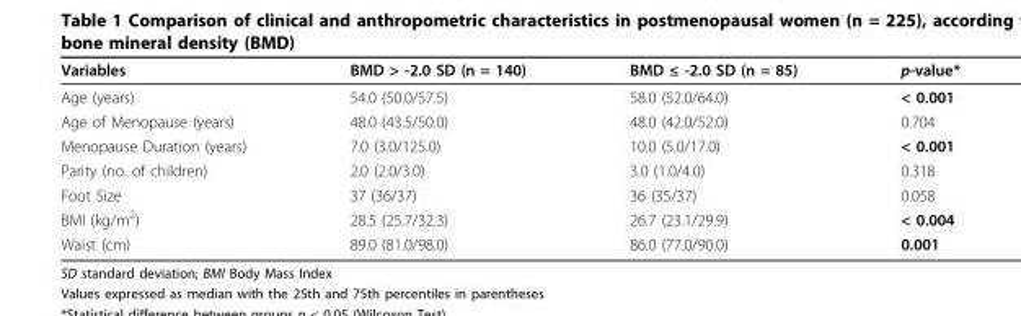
<table><thead><tr><td>Variables</td><td>BMD &gt; -2.0 SD (n = 140)</td><td>BMD ≤ -2.0 SD (n = 85)</td><td>p-value*</td></tr></thead><tbody><tr><td>Age (years)</td><td>54.0 (50.0/57.5)</td><td>58.0 (52.0/64.0)</td><td>&lt; 0.001</td></tr><tr><td>Age of Menopause (years)</td><td>48.0 (43.5/50.0)</td><td>48.0 (42.0/52.0)</td><td>0.704</td></tr><tr><td>Menopause Duration (years)</td><td>7.0 (3.0/125.0)</td><td>10.0 (5.0/17.0)</td><td>&lt; 0.001</td></tr><tr><td>Parity (no. of children)</td><td>2.0 (2.0/3.0)</td><td>3.0 (1.0/4.0)</td><td>0.318</td></tr><tr><td>Foot Size</td><td>37 (36/37)</td><td>36 (35/37)</td><td>0.058</td></tr><tr><td>BMI (kg/m<sup>2</sup>)</td><td>28.5 (25.7/32.3)</td><td>26.7 (23.1/29.9)</td><td>&lt; 0.004</td></tr><tr><td>Waist (cm)</td><td>89.0 (81.0/98.0)</td><td>86.0 (77.0/90.0)</td><td>0.001</td></tr></tbody></table>